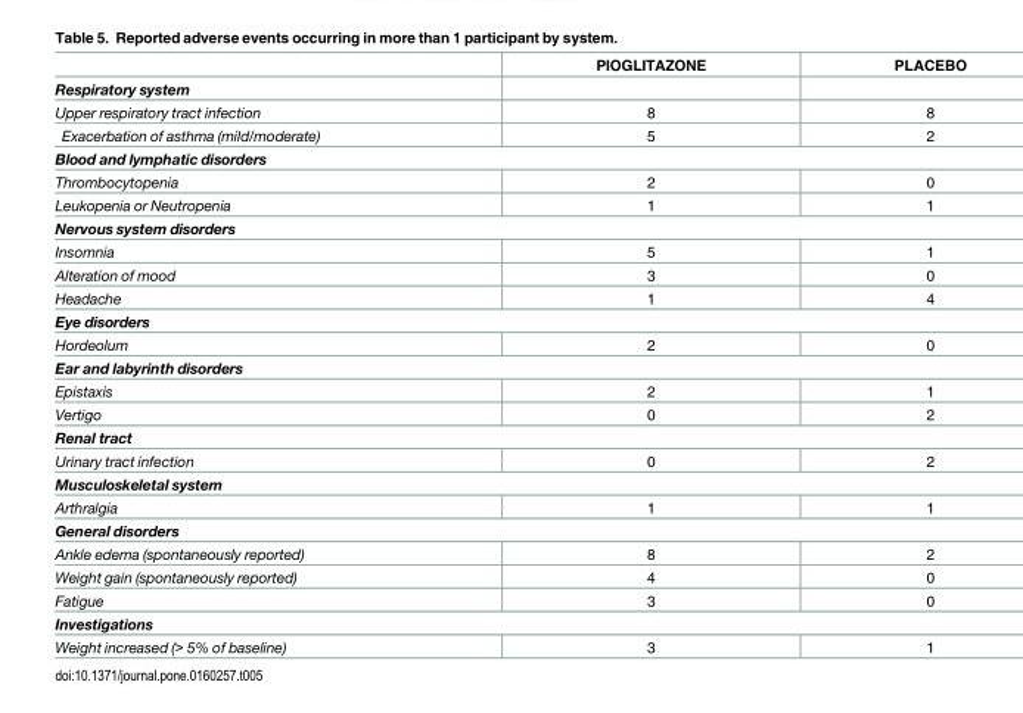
<table><thead><tr><td></td><td>PIOGLITAZONE</td><td>PLACEBO</td></tr></thead><tbody><tr><td colspan="3">Respiratory system</td></tr><tr><td>Upper respiratory tract infection</td><td>8</td><td>8</td></tr><tr><td>Exacerbation of asthma (mild/moderate)</td><td>5</td><td>2</td></tr><tr><td colspan="3">Blood and lymphatic disorders</td></tr><tr><td>Thrombocytopenia</td><td>2</td><td>0</td></tr><tr><td>Leukopenia or Neutropenia</td><td>1</td><td>1</td></tr><tr><td colspan="3">Nervous system disorders</td></tr><tr><td>Insomnia</td><td>5</td><td>1</td></tr><tr><td>Alteration of mood</td><td>3</td><td>0</td></tr><tr><td>Headache</td><td>1</td><td>4</td></tr><tr><td colspan="3">Eye disorders</td></tr><tr><td>Hordeolum</td><td>2</td><td>0</td></tr><tr><td colspan="3">Ear and labyrinth disorders</td></tr><tr><td>Epistaxis</td><td>2</td><td>1</td></tr><tr><td>Vertigo</td><td>0</td><td>2</td></tr><tr><td colspan="3">Renal tract</td></tr><tr><td>Urinary tract infection</td><td>0</td><td>2</td></tr><tr><td colspan="3">Musculoskeletal system</td></tr><tr><td>Arthralgia</td><td>1</td><td>1</td></tr><tr><td colspan="3">General disorders</td></tr><tr><td>Ankle edema (spontaneously reported)</td><td>8</td><td>2</td></tr><tr><td>Weight gain (spontaneously reported)</td><td>4</td><td>0</td></tr><tr><td>Fatigue</td><td>3</td><td>0</td></tr><tr><td colspan="3">Investigations</td></tr><tr><td>Weight increased (&gt; 5% of baseline)</td><td>3</td><td>1</td></tr></tbody></table>